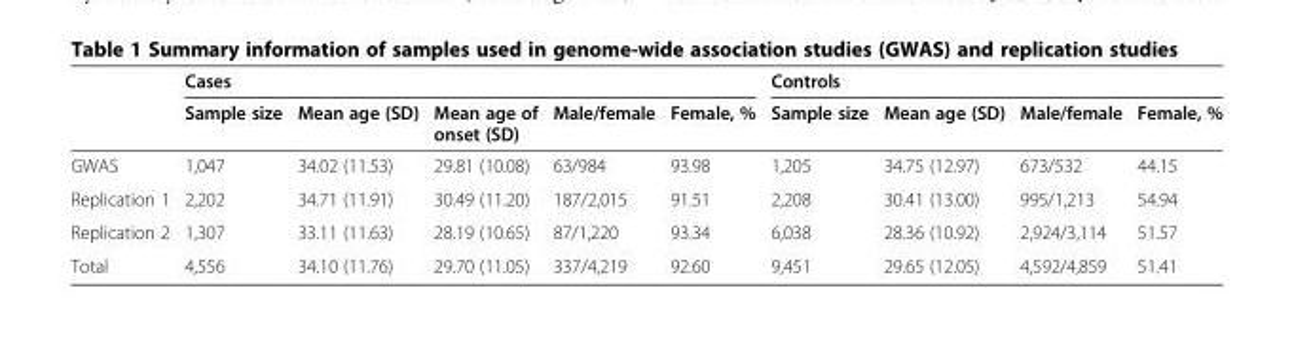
<table><thead><tr><td rowspan="2"></td><td colspan="5">Cases</td><td colspan="4">Controls</td></tr><tr><td>Sample size</td><td>Mean age (SD)</td><td>Mean age of onset (SD)</td><td>Male/female</td><td>Female, %</td><td>Sample size</td><td>Mean age (SD)</td><td>Male/female</td><td>Female, %</td></tr></thead><tbody><tr><td>GWAS</td><td>1,047</td><td>34.02 (11.53)</td><td>29.81 (10.08)</td><td>63/984</td><td>93.98</td><td>1,205</td><td>34.75 (12.97)</td><td>673/532</td><td>44.15</td></tr><tr><td>Replication 1</td><td>2,202</td><td>34.71 (11.91)</td><td>30.49 (11.20)</td><td>187/2,015</td><td>91.51</td><td>2,208</td><td>30.41 (13.00)</td><td>995/1,213</td><td>54.94</td></tr><tr><td>Replication 2</td><td>1,307</td><td>33.11 (11.63)</td><td>28.19 (10.65)</td><td>87/1,220</td><td>93.34</td><td>6,038</td><td>28.36 (10.92)</td><td>2,924/3,114</td><td>51.57</td></tr><tr><td>Total</td><td>4,556</td><td>34.10 (11.76)</td><td>29.70 (11.05)</td><td>337/4,219</td><td>92.60</td><td>9,451</td><td>29.65 (12.05)</td><td>4,592/4,859</td><td>51.41</td></tr></tbody></table>